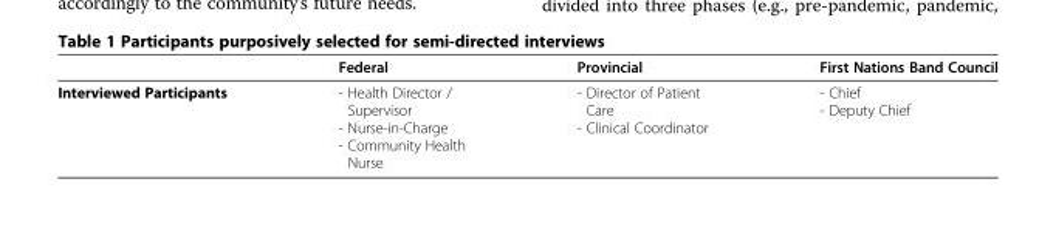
<table><thead><tr><td></td><td>Federal</td><td>Provincial</td><td>First Nations Band Council</td></tr></thead><tbody><tr><td>Interviewed Participants</td><td>- Health Director / Supervisor - Nurse-in-Charge - Community Health Nurse</td><td>- Director of Patient Care - Clinical Coordinator</td><td>- Chief - Deputy Chief</td></tr></tbody></table>